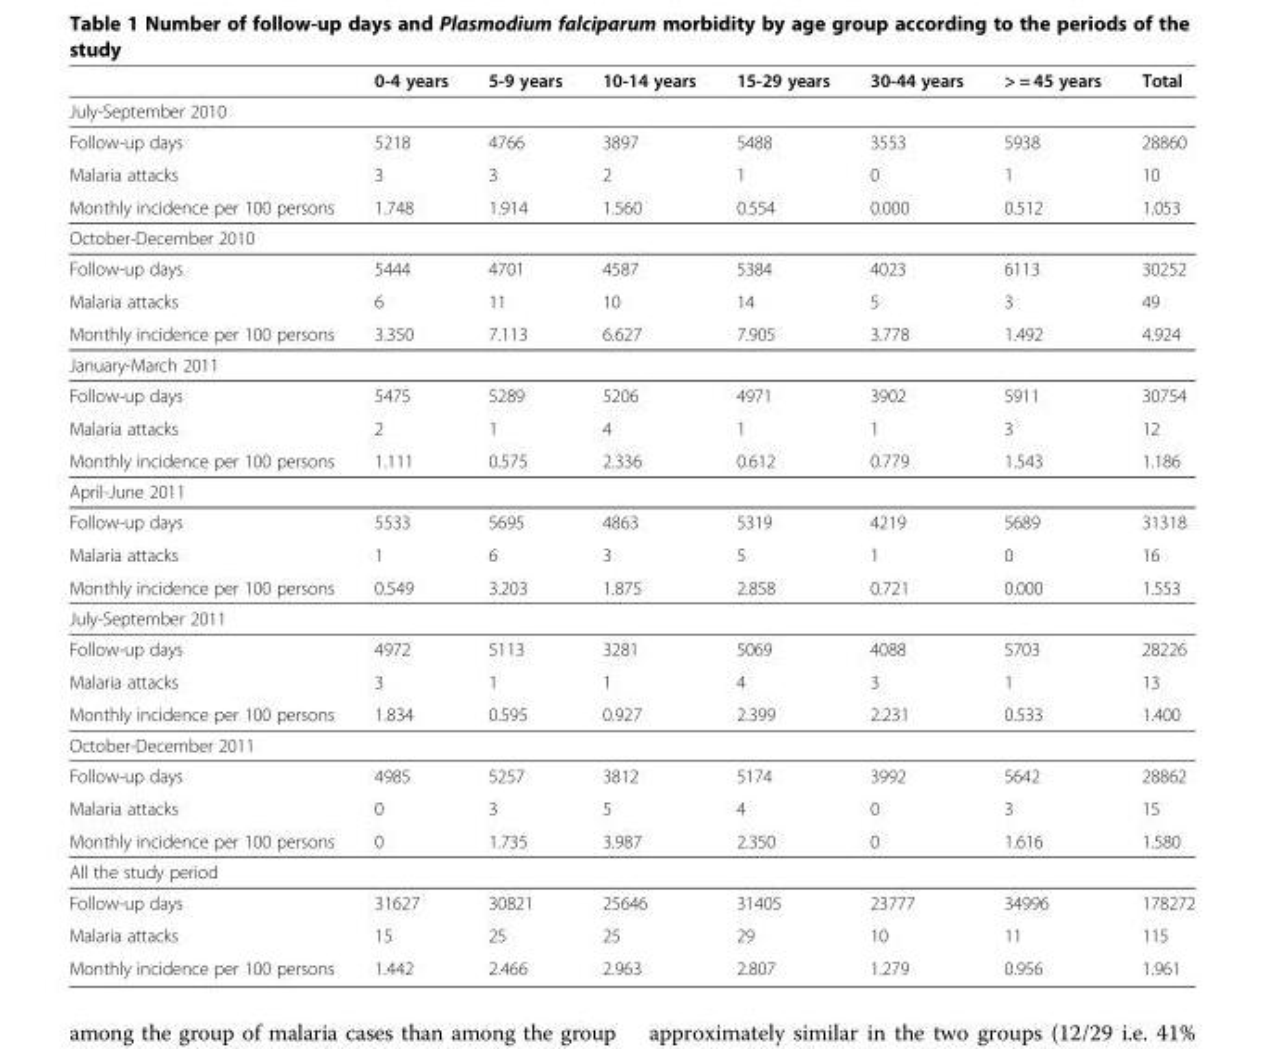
<table><thead><tr><td></td><td>0-4 years</td><td>5-9 years</td><td>10-14 years</td><td>15-29 years</td><td>30-44 years</td><td>&gt; = 45 years</td><td>Total</td></tr></thead><tbody><tr><td colspan="8">July-September 2010</td></tr><tr><td>Follow-up days</td><td>5218</td><td>4766</td><td>3897</td><td>5488</td><td>3553</td><td>5938</td><td>28860</td></tr><tr><td>Malaria attacks</td><td>3</td><td>3</td><td>2</td><td>1</td><td>0</td><td>1</td><td>10</td></tr><tr><td>Monthly incidence per 100 persons</td><td>1.748</td><td>1.914</td><td>1.560</td><td>0.554</td><td>0.000</td><td>0.512</td><td>1.053</td></tr><tr><td colspan="8">October-December 2010</td></tr><tr><td>Follow-up days</td><td>5444</td><td>4701</td><td>4587</td><td>5384</td><td>4023</td><td>6113</td><td>30252</td></tr><tr><td>Malaria attacks</td><td>6</td><td>11</td><td>10</td><td>14</td><td>5</td><td>3</td><td>49</td></tr><tr><td>Monthly incidence per 100 persons</td><td>3.350</td><td>7.113</td><td>6.627</td><td>7.905</td><td>3.778</td><td>1.492</td><td>4.924</td></tr><tr><td colspan="8">January-March 2011</td></tr><tr><td>Follow-up days</td><td>5475</td><td>5289</td><td>5206</td><td>4971</td><td>3902</td><td>5911</td><td>30754</td></tr><tr><td>Malaria attacks</td><td>2</td><td>1</td><td>4</td><td>1</td><td>1</td><td>3</td><td>12</td></tr><tr><td>Monthly incidence per 100 persons</td><td>1.111</td><td>0.575</td><td>2.336</td><td>0.612</td><td>0.779</td><td>1.543</td><td>1.186</td></tr><tr><td colspan="8">April-June 2011</td></tr><tr><td>Follow-up days</td><td>5533</td><td>5695</td><td>4863</td><td>5319</td><td>4219</td><td>5689</td><td>31318</td></tr><tr><td>Malaria attacks</td><td>1</td><td>6</td><td>3</td><td>5</td><td>1</td><td>0</td><td>16</td></tr><tr><td>Monthly incidence per 100 persons</td><td>0.549</td><td>3.203</td><td>1.875</td><td>2.858</td><td>0.721</td><td>0.000</td><td>1.553</td></tr><tr><td colspan="8">July-September 2011</td></tr><tr><td>Follow-up days</td><td>4972</td><td>5113</td><td>3281</td><td>5069</td><td>4088</td><td>5703</td><td>28226</td></tr><tr><td>Malaria attacks</td><td>3</td><td>1</td><td>1</td><td>4</td><td>3</td><td>1</td><td>13</td></tr><tr><td>Monthly incidence per 100 persons</td><td>1.834</td><td>0.595</td><td>0.927</td><td>2.399</td><td>2.231</td><td>0.533</td><td>1.400</td></tr><tr><td colspan="8">October-December 2011</td></tr><tr><td>Follow-up days</td><td>4985</td><td>5257</td><td>3812</td><td>5174</td><td>3992</td><td>5642</td><td>28862</td></tr><tr><td>Malaria attacks</td><td>0</td><td>3</td><td>5</td><td>4</td><td>0</td><td>3</td><td>15</td></tr><tr><td>Monthly incidence per 100 persons</td><td>0</td><td>1.735</td><td>3.987</td><td>2.350</td><td>0</td><td>1.616</td><td>1.580</td></tr><tr><td colspan="8">All the study period</td></tr><tr><td>Follow-up days</td><td>31627</td><td>30821</td><td>25646</td><td>31405</td><td>23777</td><td>34996</td><td>178272</td></tr><tr><td>Malaria attacks</td><td>15</td><td>25</td><td>25</td><td>29</td><td>10</td><td>11</td><td>115</td></tr><tr><td>Monthly incidence per 100 persons</td><td>1.442</td><td>2.466</td><td>2.963</td><td>2.807</td><td>1.279</td><td>0.956</td><td>1.961</td></tr></tbody></table>